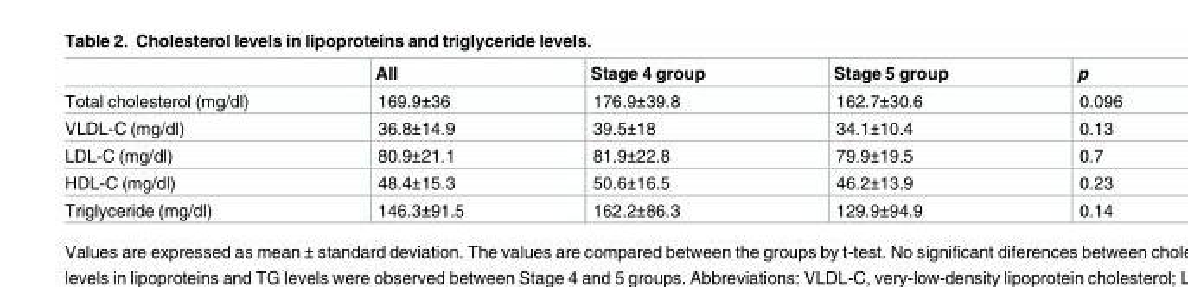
<table><thead><tr><td></td><td>All</td><td>Stage 4 group</td><td>Stage 5 group</td><td>p</td></tr></thead><tbody><tr><td>Total cholesterol (mg/dl)</td><td>169.9±36</td><td>176.9±39.8</td><td>162.7±30.6</td><td>0.096</td></tr><tr><td>VLDL-C (mg/dl)</td><td>36.8±14.9</td><td>39.5±18</td><td>34.1±10.4</td><td>0.13</td></tr><tr><td>LDL-C (mg/dl)</td><td>80.9±21.1</td><td>81.9±22.8</td><td>79.9±19.5</td><td>0.7</td></tr><tr><td>HDL-C (mg/dl)</td><td>48.4±15.3</td><td>50.6±16.5</td><td>46.2±13.9</td><td>0.23</td></tr><tr><td>Triglyceride (mg/dl)</td><td>146.3±91.5</td><td>162.2±86.3</td><td>129.9±94.9</td><td>0.14</td></tr></tbody></table>